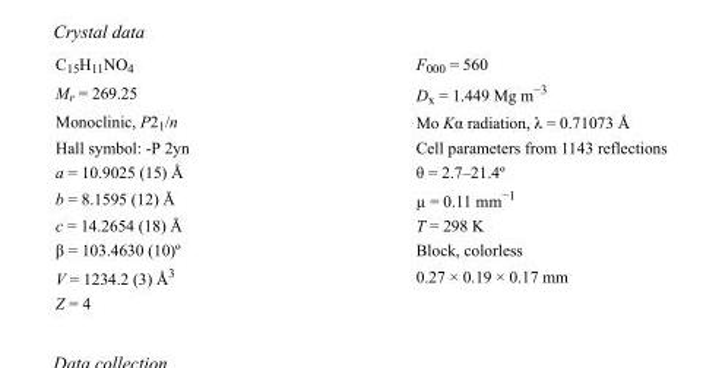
<table><tbody><tr><td>C<sub>15</sub>H<sub>11</sub>NO<sub>4</sub></td><td>F000 = 560</td></tr><tr><td>M<sub>r</sub> = 269.25</td><td>D<sub>x</sub> = 1.449 Mg m<sup>−3</sup></td></tr><tr><td>Monoclinic, P2<sub>1</sub>/n</td><td>Mo Kα radiation, λ = 0.71073 Å</td></tr><tr><td>Hall symbol: -P 2yn</td><td>Cell parameters from 1143 reflections</td></tr><tr><td>a = 10.9025 (15) Å</td><td>θ = 2.7–21.4º</td></tr><tr><td>b = 8.1595 (12) Å</td><td>µ = 0.11 mm<sup>−1</sup></td></tr><tr><td>c = 14.2654 (18) Å</td><td>T = 298 K</td></tr><tr><td>β = 103.4630 (10)º</td><td>Block, colorless</td></tr><tr><td>V = 1234.2 (3) Å<sup>3</sup></td><td>0.27 × 0.19 × 0.17 mm</td></tr><tr><td>Z = 4</td><td></td></tr></tbody></table>